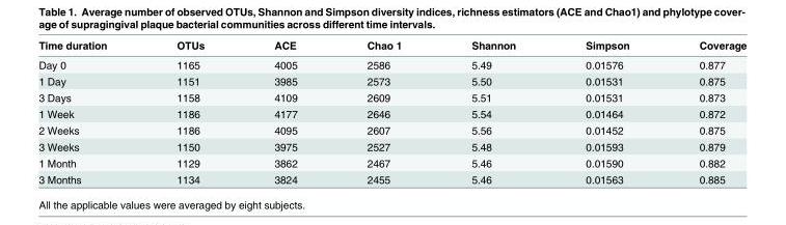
<table><thead><tr><td>Time duration</td><td>OTUs</td><td>ACE</td><td>Chao 1</td><td>Shannon</td><td>Simpson</td><td>Coverage</td></tr></thead><tbody><tr><td>Day 0</td><td>1165</td><td>4005</td><td>2586</td><td>5.49</td><td>0.01576</td><td>0.877</td></tr><tr><td>1 Day</td><td>1151</td><td>3985</td><td>2573</td><td>5.50</td><td>0.01531</td><td>0.875</td></tr><tr><td>3 Days</td><td>1158</td><td>4109</td><td>2609</td><td>5.51</td><td>0.01531</td><td>0.873</td></tr><tr><td>1 Week</td><td>1186</td><td>4177</td><td>2646</td><td>5.54</td><td>0.01464</td><td>0.872</td></tr><tr><td>2 Weeks</td><td>1186</td><td>4095</td><td>2607</td><td>5.56</td><td>0.01452</td><td>0.875</td></tr><tr><td>3 Weeks</td><td>1150</td><td>3975</td><td>2527</td><td>5.48</td><td>0.01593</td><td>0.879</td></tr><tr><td>1 Month</td><td>1129</td><td>3862</td><td>2467</td><td>5.46</td><td>0.01590</td><td>0.882</td></tr><tr><td>3 Months</td><td>1134</td><td>3824</td><td>2455</td><td>5.46</td><td>0.01563</td><td>0.885</td></tr></tbody></table>